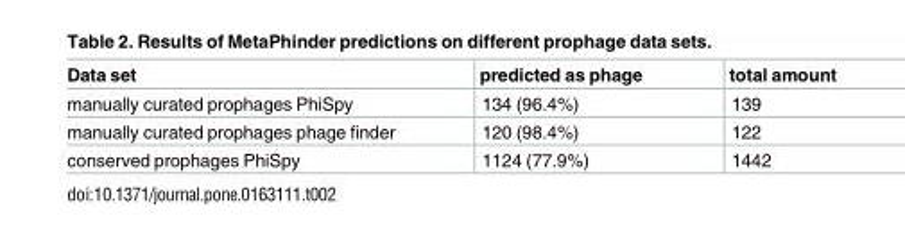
<table><thead><tr><td>Data set</td><td>predicted as phage</td><td>total amount</td></tr></thead><tbody><tr><td>manually curated prophages PhiSpy</td><td>134 (96.4%)</td><td>139</td></tr><tr><td>manually curated prophages phage finder</td><td>120 (98.4%)</td><td>122</td></tr><tr><td>conserved prophages PhiSpy</td><td>1124 (77.9%)</td><td>1442</td></tr></tbody></table>